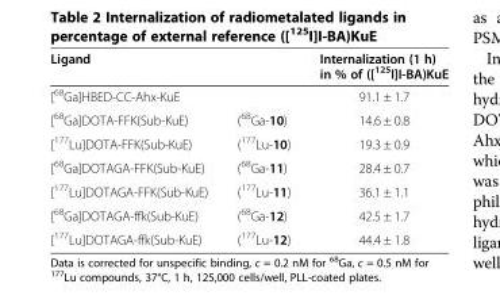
<table><thead><tr><td colspan="2">Ligand</td><td rowspan="2">Internalization (1 h) in % of ([125I]I-BA)KuE 91.1 ± 1.7</td></tr><tr><td>[<sup>68</sup>Ga]HBED-CC-Ahx-KuE</td><td></td></tr></thead><tbody><tr><td>[<sup>68</sup>Ga]DOTA-FFK(Sub-KuE)</td><td>(<sup>68</sup>Ga-10)</td><td>14.6 ± 0.8</td></tr><tr><td>[<sup>177</sup>Lu]DOTA-FFK(Sub-KuE)</td><td>(<sup>177</sup>Lu-10)</td><td>19.3 ± 0.9</td></tr><tr><td>[<sup>68</sup>Ga]DOTAGA-FFK(Sub-KuE)</td><td>(<sup>68</sup>Ga-11)</td><td>28.4 ± 0.7</td></tr><tr><td>[<sup>177</sup>Lu]DOTAGA-FFK(Sub-KuE)</td><td>(<sup>177</sup>Lu-11)</td><td>36.1 ± 1.1</td></tr><tr><td>[<sup>68</sup>Ga]DOTAGA-ffk(Sub-KuE)</td><td>(<sup>68</sup>Ga-12)</td><td>42.5 ± 1.7</td></tr><tr><td>[<sup>177</sup>Lu]DOTAGA-ffk(Sub-KuE)</td><td>(<sup>177</sup>Lu-12)</td><td>44.4 ± 1.8</td></tr></tbody></table>